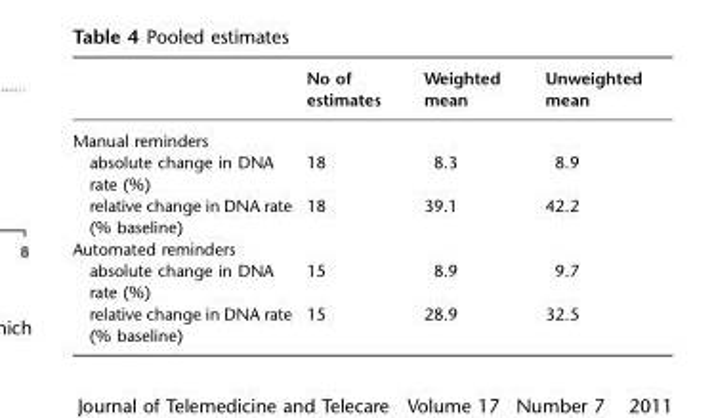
<table><thead><tr><td></td><td>No of estimates</td><td>Weighted mean</td><td>Unweighted mean</td></tr></thead><tbody><tr><td colspan="4">Manual reminders</td></tr><tr><td>absolute change in DNA rate (%)</td><td>18</td><td>8.3</td><td>8.9</td></tr><tr><td>relative change in DNA rate (% baseline)</td><td>18</td><td>39.1</td><td>42.2</td></tr><tr><td colspan="4">Automated reminders</td></tr><tr><td>absolute change in DNA rate (%)</td><td>15</td><td>8.9</td><td>9.7</td></tr><tr><td>relative change in DNA rate (% baseline)</td><td>15</td><td>28.9</td><td>32.5</td></tr></tbody></table>